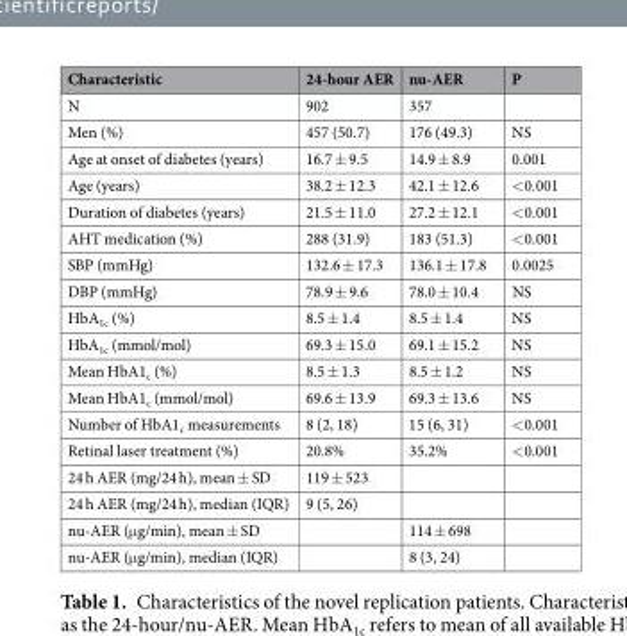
<table><thead><tr><td>Characteristic</td><td>24-hour AER</td><td>nu-AER</td><td>P</td></tr></thead><tbody><tr><td>N</td><td>902</td><td>357</td><td></td></tr><tr><td>Men (%)</td><td>457 (50.7)</td><td>176 (49.3)</td><td>NS</td></tr><tr><td>Age at onset of diabetes (years)</td><td>16.7 ± 9.5</td><td>14.9 ± 8.9</td><td>0.001</td></tr><tr><td>Age (years)</td><td>38.2 ± 12.3</td><td>42.1 ± 12.6</td><td>&lt;0.001</td></tr><tr><td>Duration of diabetes (years)</td><td>21.5 ± 11.0</td><td>27.2 ± 12.1</td><td>&lt;0.001</td></tr><tr><td>AHT medication (%)</td><td>288 (31.9)</td><td>183 (51.3)</td><td>&lt;0.001</td></tr><tr><td>SBP (mmHg)</td><td>132.6 ± 17.3</td><td>136.1 ± 17.8</td><td>0.0025</td></tr><tr><td>DBP (mmHg)</td><td>78.9 ± 9.6</td><td>78.0 ± 10.4</td><td>NS</td></tr><tr><td>HbA<sub>1c</sub> (%)</td><td>8.5 ± 1.4</td><td>8.5 ± 1.4</td><td>NS</td></tr><tr><td>HbA<sub>1c</sub> (mmol/mol)</td><td>69.3 ± 15.0</td><td>69.1 ± 15.2</td><td>NS</td></tr><tr><td>Mean HbA1<sub>c</sub> (%)</td><td>8.5 ± 1.3</td><td>8.5 ± 1.2</td><td>NS</td></tr><tr><td>Mean HbA1<sub>c</sub> (mmol/mol)</td><td>69.6 ± 13.9</td><td>69.3 ± 13.6</td><td>NS</td></tr><tr><td>Number of HbA1<sub>c</sub> measurements</td><td>8 (2, 18)</td><td>15 (6, 31)</td><td>&lt;0.001</td></tr><tr><td>Retinal laser treatment (%)</td><td>20.8%</td><td>35.2%</td><td>&lt;0.001</td></tr><tr><td>24 h AER (mg/24 h), mean ± SD</td><td>119 ± 523</td><td></td><td></td></tr><tr><td>24 h AER (mg/24 h), median (IQR)</td><td>9 (5, 26)</td><td></td><td></td></tr><tr><td>nu-AER (μg/min), mean ± SD</td><td></td><td>114 ± 698</td><td></td></tr><tr><td>nu-AER (μg/min), median (IQR)</td><td></td><td>8 (3, 24)</td><td></td></tr></tbody></table>